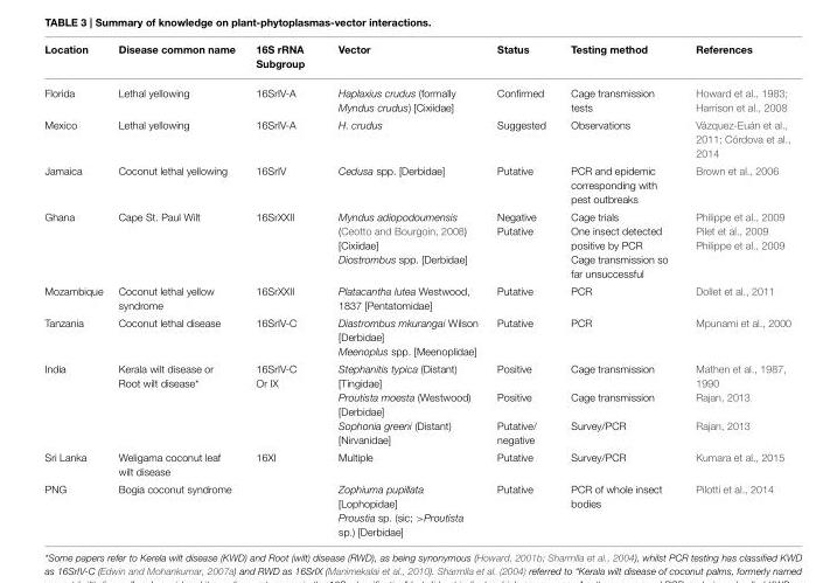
<table><thead><tr><td>Location</td><td>Disease common name</td><td>16S rRNA Subgroup</td><td>Vector</td><td>Status</td><td>Testing method</td><td>References</td></tr></thead><tbody><tr><td>Florida</td><td>Lethal yellowing</td><td>16SrIV-A</td><td>Haplaxius crudus (formally Myndus crudus) [Cixiidae]</td><td>Confirmed</td><td>Cage transmission tests</td><td>Howard et al., 1983; Harrison et al., 2008</td></tr><tr><td>Mexico</td><td>Lethal yellowing</td><td>16SrIV-A</td><td>H. crudus</td><td>Suggested</td><td>Observations</td><td>Vázquez-Euán et al., 2011; Córdova et al., 2014</td></tr><tr><td>Jamaica</td><td>Coconut lethal yellowing</td><td>16SrIV</td><td>Cedusa spp. [Derbidae]</td><td>Putative</td><td>PCR and epidemic corresponding with pest outbreaks</td><td>Brown et al., 2006</td></tr><tr><td>Ghana</td><td>Cape St. Paul Wilt</td><td>16SrXXII</td><td>Myndus adiopodoumensis (Ceotto and Bourgoin, 2008) [Cixiidae] Diostrombus spp. [Derbidae]</td><td>Negative Putative</td><td>Cage trials One insect detected positive by PCR Cage transmission so far unsuccessful</td><td>Philippe et al., 2009 Pilet et al., 2009 Philippe et al., 2009</td></tr><tr><td>Mozambique</td><td>Coconut lethal yellow syndrome</td><td>16SrXXII</td><td>Platacantha lutea Westwood, 1837 [Pentatomidae]</td><td>Putative</td><td>PCR</td><td>Dollet et al., 2011</td></tr><tr><td>Tanzania</td><td>Coconut lethal disease</td><td>16SrIV-C</td><td>Diastrombus mkurangai Wilson [Derbidae] Meenoplus spp. [Meenoplidae]</td><td>Putative</td><td>PCR</td><td>Mpunami et al., 2000</td></tr><tr><td>India</td><td>Kerala wilt disease or Root wilt disease*</td><td>16SrIV-C Or IX</td><td>Stephanitis typica (Distant) [Tingidae] Proutista moesta (Westwood) [Derbidae] Sophonia greeni (Distant) [Nirvanidae]</td><td>Positive Positive Putative/ negative</td><td>Cage transmission Cage transmission Survey/PCR</td><td>Mathen et al., 1987, 1990 Rajan, 2013 Rajan, 2013</td></tr><tr><td>Sri Lanka</td><td>Weligama coconut leaf wilt disease</td><td>16XI</td><td>Multiple</td><td>Putative</td><td>Survey/PCR</td><td>Kumara et al., 2015</td></tr><tr><td>PNG</td><td>Bogia coconut syndrome</td><td></td><td>Zophiuma pupillata [Lophopidae] Proustia sp. (sic; &gt;Proutista sp.) [Derbidae]</td><td>Putative</td><td>PCR of whole insect bodies</td><td>Pilotti et al., 2014</td></tr></tbody></table>